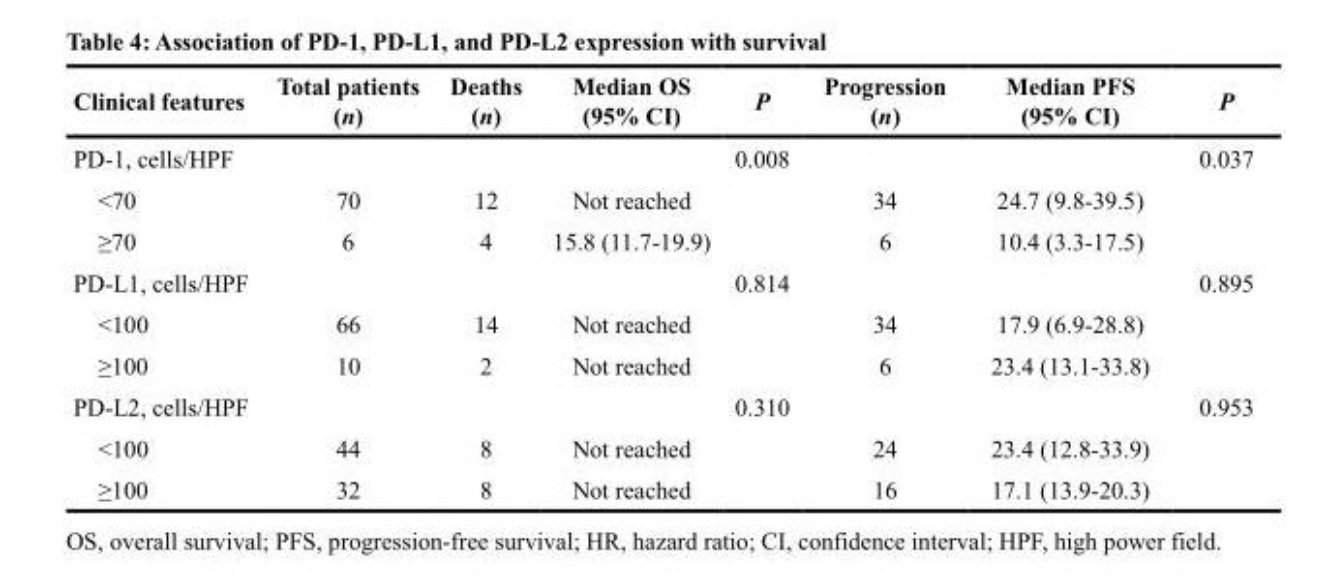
<table><thead><tr><td>Clinical features</td><td>Total patients (n)</td><td>Deaths (n)</td><td>Median OS (95% CI)</td><td>P</td><td>Progression (n)</td><td>Median PFS (95% CI)</td><td>P</td></tr></thead><tbody><tr><td>PD-1, cells/HPF</td><td></td><td></td><td></td><td>0.008</td><td></td><td></td><td>0.037</td></tr><tr><td>&lt;70</td><td>70</td><td>12</td><td>Not reached</td><td></td><td>34</td><td>24.7 (9.8-39.5)</td><td></td></tr><tr><td>≥70</td><td>6</td><td>4</td><td>15.8 (11.7-19.9)</td><td></td><td>6</td><td>10.4 (3.3-17.5)</td><td></td></tr><tr><td>PD-L1, cells/HPF</td><td></td><td></td><td></td><td>0.814</td><td></td><td></td><td>0.895</td></tr><tr><td>&lt;100</td><td>66</td><td>14</td><td>Not reached</td><td></td><td>34</td><td>17.9 (6.9-28.8)</td><td></td></tr><tr><td>≥100</td><td>10</td><td>2</td><td>Not reached</td><td></td><td>6</td><td>23.4 (13.1-33.8)</td><td></td></tr><tr><td>PD-L2, cells/HPF</td><td></td><td></td><td></td><td>0.310</td><td></td><td></td><td>0.953</td></tr><tr><td>&lt;100</td><td>44</td><td>8</td><td>Not reached</td><td></td><td>24</td><td>23.4 (12.8-33.9)</td><td></td></tr><tr><td>≥100</td><td>32</td><td>8</td><td>Not reached</td><td></td><td>16</td><td>17.1 (13.9-20.3)</td><td></td></tr></tbody></table>